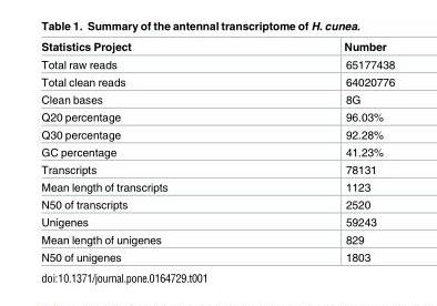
<table><thead><tr><td>Statistics Project</td><td>Number</td></tr></thead><tbody><tr><td>Total raw reads</td><td>65177438</td></tr><tr><td>Total clean reads</td><td>64020776</td></tr><tr><td>Clean bases</td><td>8G</td></tr><tr><td>Q20 percentage</td><td>96.03%</td></tr><tr><td>Q30 percentage</td><td>92.28%</td></tr><tr><td>GC percentage</td><td>41.23%</td></tr><tr><td>Transcripts</td><td>78131</td></tr><tr><td>Mean length of transcripts</td><td>1123</td></tr><tr><td>N50 of transcripts</td><td>2520</td></tr><tr><td>Unigenes</td><td>59243</td></tr><tr><td>Mean length of unigenes</td><td>829</td></tr><tr><td>N50 of unigenes</td><td>1803</td></tr></tbody></table>